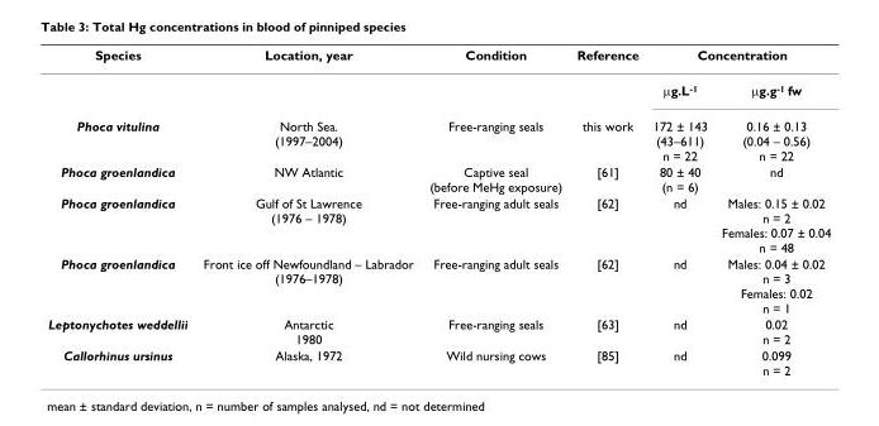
<table><thead><tr><td rowspan="2">Species</td><td rowspan="2">Location, year</td><td rowspan="2">Condition</td><td rowspan="2">Reference</td><td colspan="2">Concentration</td></tr><tr><td>μg.L<sup>-1</sup></td><td>μg.g<sup>-1</sup> fw</td></tr></thead><tbody><tr><td>Phoca vitulina</td><td>North Sea. (1997–2004)</td><td>Free-ranging seals</td><td>this work</td><td>172 ± 143 (43–611) n = 22</td><td>0.16 ± 0.13 (0.04 – 0.56) n = 22</td></tr><tr><td>Phoca groenlandica</td><td>NW Atlantic</td><td>Captive seal (before MeHg exposure)</td><td>[61]</td><td>80 ± 40 (n = 6)</td><td>nd</td></tr><tr><td>Phoca groenlandica</td><td>Gulf of St Lawrence (1976 – 1978)</td><td>Free-ranging adult seals</td><td>[62]</td><td>nd</td><td>Males: 0.15 ± 0.02 n = 2 Females: 0.07 ± 0.04 n = 48</td></tr><tr><td>Phoca groenlandica</td><td>Front ice off Newfoundland – Labrador (1976–1978)</td><td>Free-ranging adult seals</td><td>[62]</td><td>nd</td><td>Males: 0.04 ± 0.02 n = 3 Females: 0.02 n = 1</td></tr><tr><td>Leptonychotes weddellii</td><td>Antarctic 1980</td><td>Free-ranging seals</td><td>[63]</td><td>nd</td><td>0.02 n = 2</td></tr><tr><td>Callorhinus ursinus</td><td>Alaska, 1972</td><td>Wild nursing cows</td><td>[85]</td><td>nd</td><td>0.099 n = 2</td></tr></tbody></table>